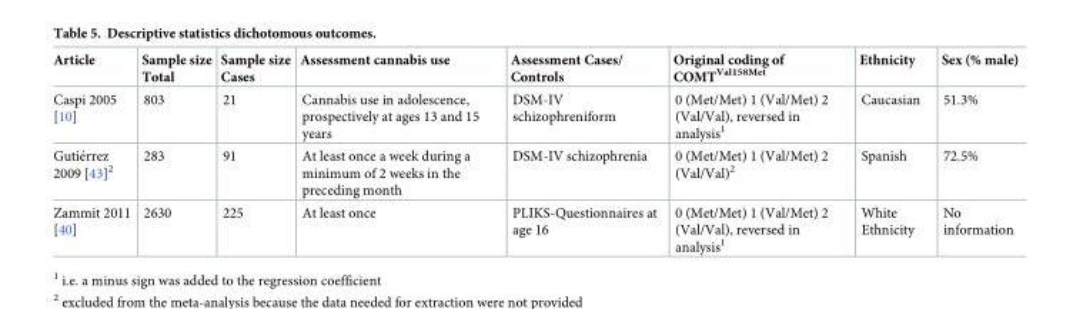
<table><thead><tr><td>Article</td><td>Sample size Total</td><td>Sample size Cases</td><td>Assessment cannabis use</td><td>Assessment Cases/ Controls</td><td>Original coding of COMT<sup>Val158Met</sup></td><td>Ethnicity</td><td>Sex (% male)</td></tr></thead><tbody><tr><td>Caspi 2005 [10]</td><td>803</td><td>21</td><td>Cannabis use in adolescence, prospectively at ages 13 and 15 years</td><td>DSM-IV schizophreniform</td><td>0 (Met/Met) 1 (Val/Met) 2 (Val/Val), reversed in analysis<sup>1</sup></td><td>Caucasian</td><td>51.3%</td></tr><tr><td>Gutie´rrez 2009 [43]2</td><td>283</td><td>91</td><td>At least once a week during a minimum of 2 weeks in the preceding month</td><td>DSM-IV schizophrenia</td><td>0 (Met/Met) 1 (Val/Met) 2 (Val/Val)<sup>2</sup></td><td>Spanish</td><td>72.5%</td></tr><tr><td>Zammit 2011 [40]</td><td>2630</td><td>225</td><td>At least once</td><td>PLIKS-Questionnaires at age 16</td><td>0 (Met/Met) 1 (Val/Met) 2 (Val/Val), reversed in analysis<sup>1</sup></td><td>White Ethnicity</td><td>No information</td></tr></tbody></table>